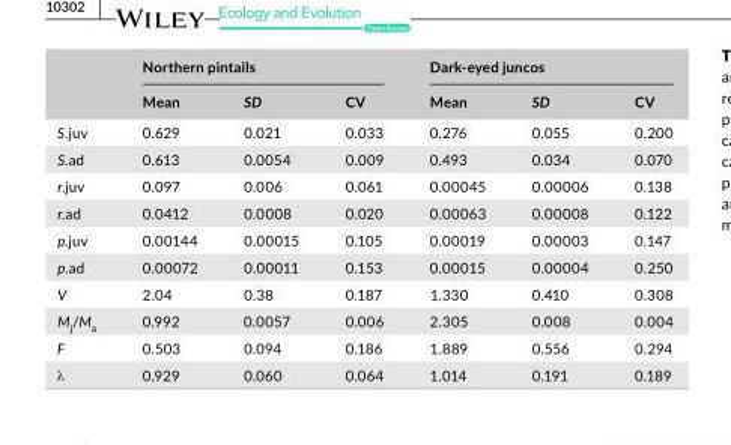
<table><thead><tr><td rowspan="2"></td><td colspan="3">Northern pintails</td><td colspan="3">Dark- eyed juncos</td></tr><tr><td>Mean</td><td>SD</td><td>CV</td><td>Mean</td><td>SD</td><td>CV</td></tr></thead><tbody><tr><td>S.juv</td><td>0.629</td><td>0.021</td><td>0.033</td><td>0.276</td><td>0.055</td><td>0.200</td></tr><tr><td>S.ad</td><td>0.613</td><td>0.0054</td><td>0.009</td><td>0.493</td><td>0.034</td><td>0.070</td></tr><tr><td>r.juv</td><td>0.097</td><td>0.006</td><td>0.061</td><td>0.00045</td><td>0.00006</td><td>0.138</td></tr><tr><td>r.ad</td><td>0.0412</td><td>0.0008</td><td>0.020</td><td>0.00063</td><td>0.00008</td><td>0.122</td></tr><tr><td>p.juv</td><td>0.00144</td><td>0.00015</td><td>0.105</td><td>0.00019</td><td>0.00003</td><td>0.147</td></tr><tr><td>p.ad</td><td>0.00072</td><td>0.00011</td><td>0.153</td><td>0.00015</td><td>0.00004</td><td>0.250</td></tr><tr><td>V</td><td>2.04</td><td>0.38</td><td>0.187</td><td>1.330</td><td>0.410</td><td>0.308</td></tr><tr><td>M<sub>j</sub>/M<sub>a</sub></td><td>0.992</td><td>0.0057</td><td>0.006</td><td>2.305</td><td>0.008</td><td>0.004</td></tr><tr><td>F</td><td>0.503</td><td>0.094</td><td>0.186</td><td>1.889</td><td>0.556</td><td>0.294</td></tr><tr><td>λ</td><td>0.929</td><td>0.060</td><td>0.064</td><td>1.014</td><td>0.191</td><td>0.189</td></tr></tbody></table>